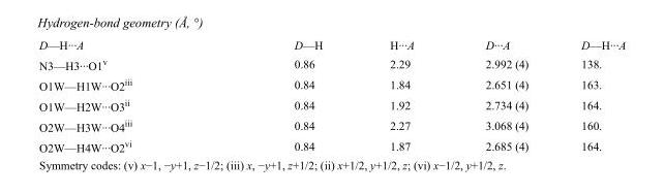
<table><tbody><tr><td>D—H···A</td><td>D—H</td><td>H···A</td><td>D···A</td><td>D—H···A</td></tr><tr><td>N3—H3···O1<sup>v</sup></td><td>0.86</td><td>2.29</td><td>2.992 (4)</td><td>138.</td></tr><tr><td>O1W—H1W···O2<sup>iii</sup></td><td>0.84</td><td>1.84</td><td>2.651 (4)</td><td>163.</td></tr><tr><td>O1W—H2W···O3<sup>ii</sup></td><td>0.84</td><td>1.92</td><td>2.734 (4)</td><td>164.</td></tr><tr><td>O2W—H3W···O4<sup>iii</sup></td><td>0.84</td><td>2.27</td><td>3.068 (4)</td><td>160.</td></tr><tr><td>O2W—H4W···O2<sup>vi</sup></td><td>0.84</td><td>1.87</td><td>2.685 (4)</td><td>164.</td></tr></tbody></table>